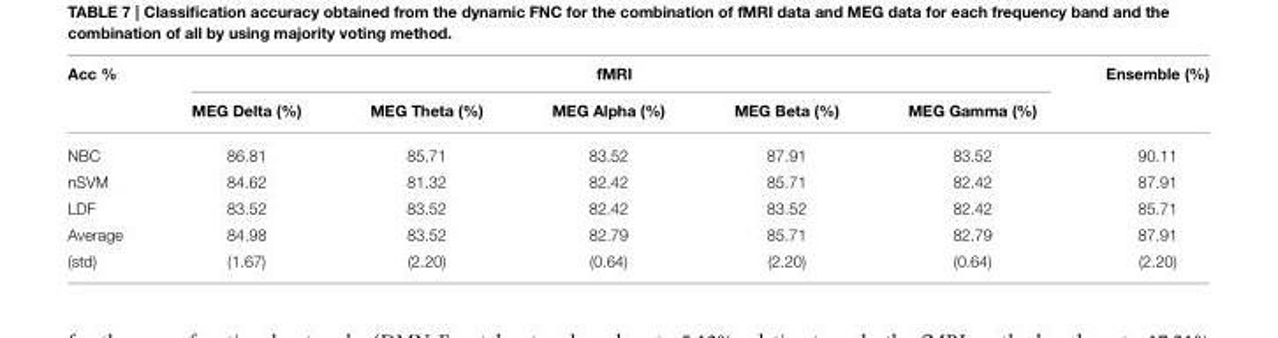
<table><thead><tr><td rowspan="2">Acc %</td><td colspan="5">fMRI</td><td rowspan="2">Ensemble (%)</td></tr><tr><td>MEG Delta (%)</td><td>MEG Theta (%)</td><td>MEG Alpha (%)</td><td>MEG Beta (%)</td><td>MEG Gamma (%)</td></tr></thead><tbody><tr><td>NBC</td><td>86.81</td><td>85.71</td><td>83.52</td><td>87.91</td><td>83.52</td><td>90.11</td></tr><tr><td>nSVM</td><td>84.62</td><td>81.32</td><td>82.42</td><td>85.71</td><td>82.42</td><td>87.91</td></tr><tr><td>LDF</td><td>83.52</td><td>83.52</td><td>82.42</td><td>83.52</td><td>82.42</td><td>85.71</td></tr><tr><td>Average</td><td>84.98</td><td>83.52</td><td>82.79</td><td>85.71</td><td>82.79</td><td>87.91</td></tr><tr><td>(std)</td><td>(1.67)</td><td>(2.20)</td><td>(0.64)</td><td>(2.20)</td><td>(0.64)</td><td>(2.20)</td></tr></tbody></table>